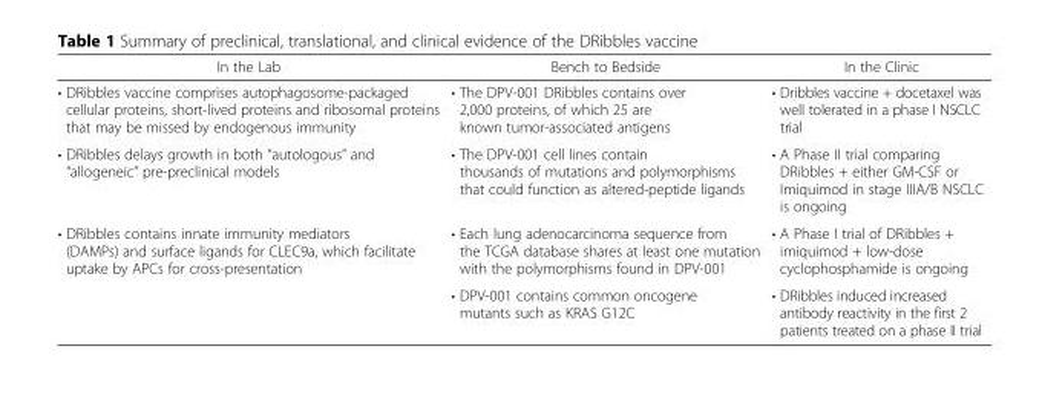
<table><thead><tr><td>In the Lab</td><td>Bench to Bedside</td><td>In the Clinic</td></tr></thead><tbody><tr><td>• DRibbles vaccine comprises autophagosome-packaged cellular proteins, short-lived proteins and ribosomal proteins that may be missed by endogenous immunity</td><td>• The DPV-001 DRibbles contains over 2,000 proteins, of which 25 are known tumor-associated antigens</td><td>• Dribbles vaccine + docetaxel was well tolerated in a phase I NSCLC trial</td></tr><tr><td>• DRibbles delays growth in both “autologous” and “allogeneic” pre-preclinical models</td><td>• The DPV-001 cell lines contain thousands of mutations and polymorphisms that could function as altered-peptide ligands</td><td>• A Phase II trial comparing DRibbles + either GM-CSF or Imiquimod in stage IIIA/B NSCLC is ongoing</td></tr><tr><td rowspan="2">• DRibbles contains innate immunity mediators (DAMPs) and surface ligands for CLEC9a, which facilitate uptake by APCs for cross-presentation</td><td>• Each lung adenocarcinoma sequence from the TCGA database shares at least one mutation with the polymorphisms found in DPV-001</td><td>• A Phase I trial of DRibbles + imiquimod + low-dose cyclophosphamide is ongoing</td></tr><tr><td>• DPV-001 contains common oncogene mutants such as KRAS G12C</td><td>• DRibbles induced increased antibody reactivity in the first 2 patients treated on a phase II trial</td></tr></tbody></table>